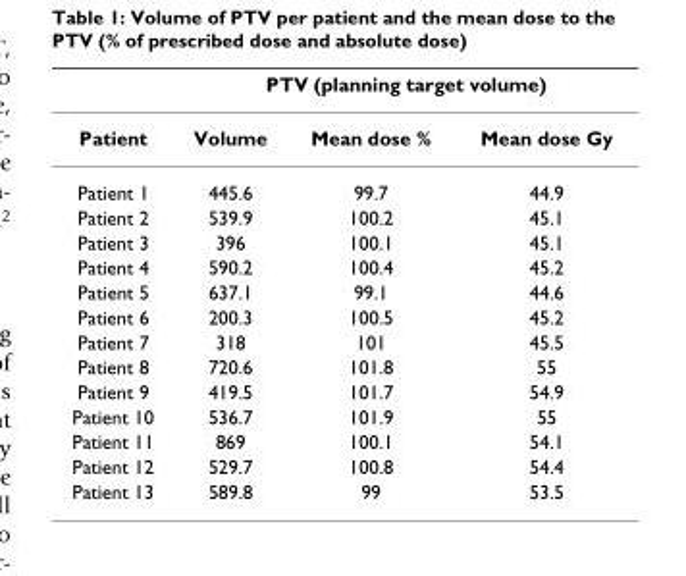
<table><thead><tr><td rowspan="2">Patient</td><td colspan="3">PTV (planning target volume)</td></tr><tr><td>Volume</td><td>Mean dose %</td><td>Mean dose Gy</td></tr></thead><tbody><tr><td>Patient 1</td><td>445.6</td><td>99.7</td><td>44.9</td></tr><tr><td>Patient 2</td><td>539.9</td><td>100.2</td><td>45.1</td></tr><tr><td>Patient 3</td><td>396</td><td>100.1</td><td>45.1</td></tr><tr><td>Patient 4</td><td>590.2</td><td>100.4</td><td>45.2</td></tr><tr><td>Patient 5</td><td>637.1</td><td>99.1</td><td>44.6</td></tr><tr><td>Patient 6</td><td>200.3</td><td>100.5</td><td>45.2</td></tr><tr><td>Patient 7</td><td>318</td><td>101</td><td>45.5</td></tr><tr><td>Patient 8</td><td>720.6</td><td>101.8</td><td>55</td></tr><tr><td>Patient 9</td><td>419.5</td><td>101.7</td><td>54.9</td></tr><tr><td>Patient 10</td><td>536.7</td><td>101.9</td><td>55</td></tr><tr><td>Patient 11</td><td>869</td><td>100.1</td><td>54.1</td></tr><tr><td>Patient 12</td><td>529.7</td><td>100.8</td><td>54.4</td></tr><tr><td>Patient 13</td><td>589.8</td><td>99</td><td>53.5</td></tr></tbody></table>